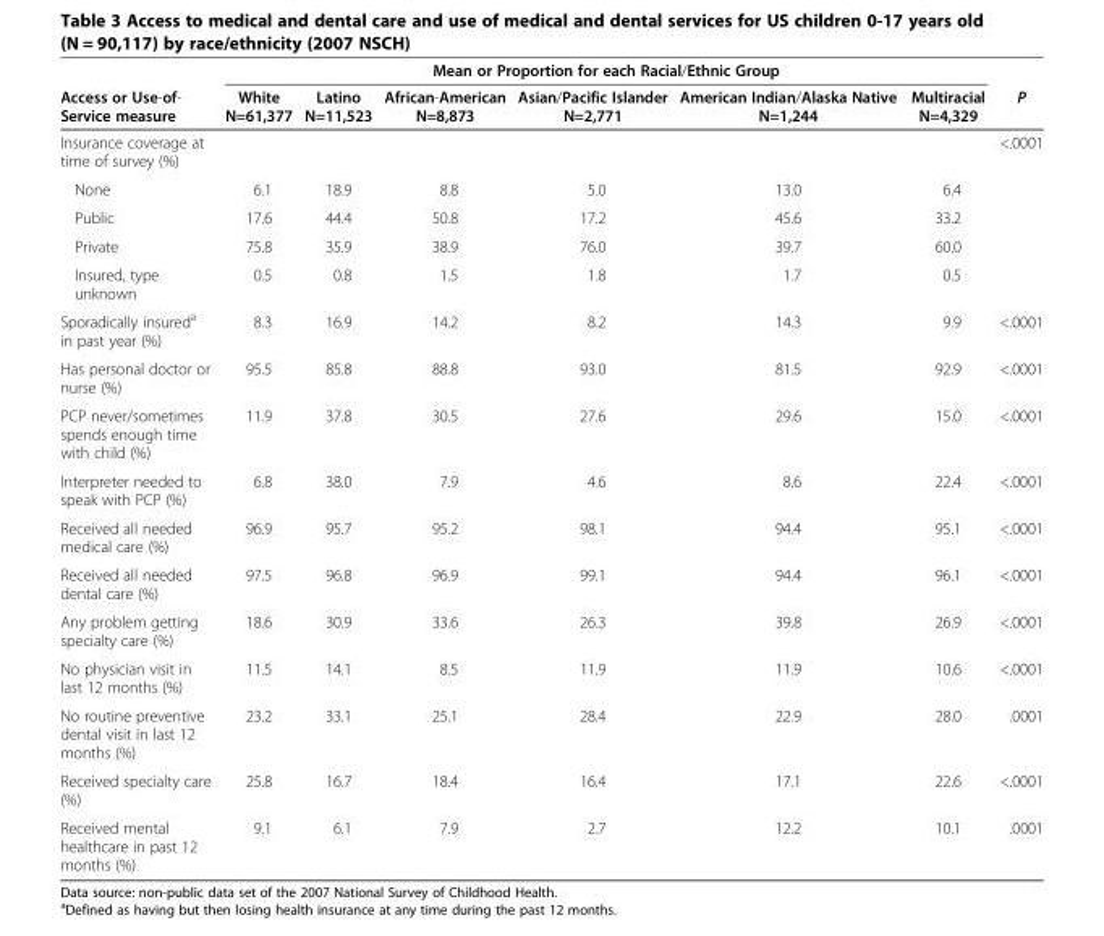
<table><thead><tr><td rowspan="2">Access or Use-of- Service measure</td><td colspan="6">Mean or Proportion for each Racial/Ethnic Group</td><td rowspan="2">P</td></tr><tr><td>White N=61,377</td><td>Latino N=11,523</td><td>African-American N=8,873</td><td>Asian/Pacific Islander N=2,771</td><td>American Indian/Alaska Native N=1,244</td><td>Multiracial N=4,329</td></tr></thead><tbody><tr><td>Insurance coverage at time of survey (%)</td><td></td><td></td><td></td><td></td><td></td><td></td><td>&lt;.0001</td></tr><tr><td>None</td><td>6.1</td><td>18.9</td><td>8.8</td><td>5.0</td><td>13.0</td><td>6.4</td><td></td></tr><tr><td>Public</td><td>17.6</td><td>44.4</td><td>50.8</td><td>17.2</td><td>45.6</td><td>33.2</td><td></td></tr><tr><td>Private</td><td>75.8</td><td>35.9</td><td>38.9</td><td>76.0</td><td>39.7</td><td>60.0</td><td></td></tr><tr><td>Insured, type unknown</td><td>0.5</td><td>0.8</td><td>1.5</td><td>1.8</td><td>1.7</td><td>0.5</td><td></td></tr><tr><td>Sporadically insured<sup>a</sup> in past year (%)</td><td>8.3</td><td>16.9</td><td>14.2</td><td>8.2</td><td>14.3</td><td>9.9</td><td>&lt;.0001</td></tr><tr><td>Has personal doctor or nurse (%)</td><td>95.5</td><td>85.8</td><td>88.8</td><td>93.0</td><td>81.5</td><td>92.9</td><td>&lt;.0001</td></tr><tr><td>PCP never/sometimes spends enough time with child (%)</td><td>11.9</td><td>37.8</td><td>30.5</td><td>27.6</td><td>29.6</td><td>15.0</td><td>&lt;.0001</td></tr><tr><td>Interpreter needed to speak with PCP (%)</td><td>6.8</td><td>38.0</td><td>7.9</td><td>4.6</td><td>8.6</td><td>22.4</td><td>&lt;.0001</td></tr><tr><td>Received all needed medical care (%)</td><td>96.9</td><td>95.7</td><td>95.2</td><td>98.1</td><td>94.4</td><td>95.1</td><td>&lt;.0001</td></tr><tr><td>Received all needed dental care (%)</td><td>97.5</td><td>96.8</td><td>96.9</td><td>99.1</td><td>94.4</td><td>96.1</td><td>&lt;.0001</td></tr><tr><td>Any problem getting specialty care (%)</td><td>18.6</td><td>30.9</td><td>33.6</td><td>26.3</td><td>39.8</td><td>26.9</td><td>&lt;.0001</td></tr><tr><td>No physician visit in last 12 months (%)</td><td>11.5</td><td>14.1</td><td>8.5</td><td>11.9</td><td>11.9</td><td>10.6</td><td>&lt;.0001</td></tr><tr><td>No routine preventive dental visit in last 12 months (%)</td><td>23.2</td><td>33.1</td><td>25.1</td><td>28.4</td><td>22.9</td><td>28.0</td><td>.0001</td></tr><tr><td>Received specialty care (%)</td><td>25.8</td><td>16.7</td><td>18.4</td><td>16.4</td><td>17.1</td><td>22.6</td><td>&lt;.0001</td></tr><tr><td>Received mental healthcare in past 12 months (%)</td><td>9.1</td><td>6.1</td><td>7.9</td><td>2.7</td><td>12.2</td><td>10.1</td><td>.0001</td></tr></tbody></table>